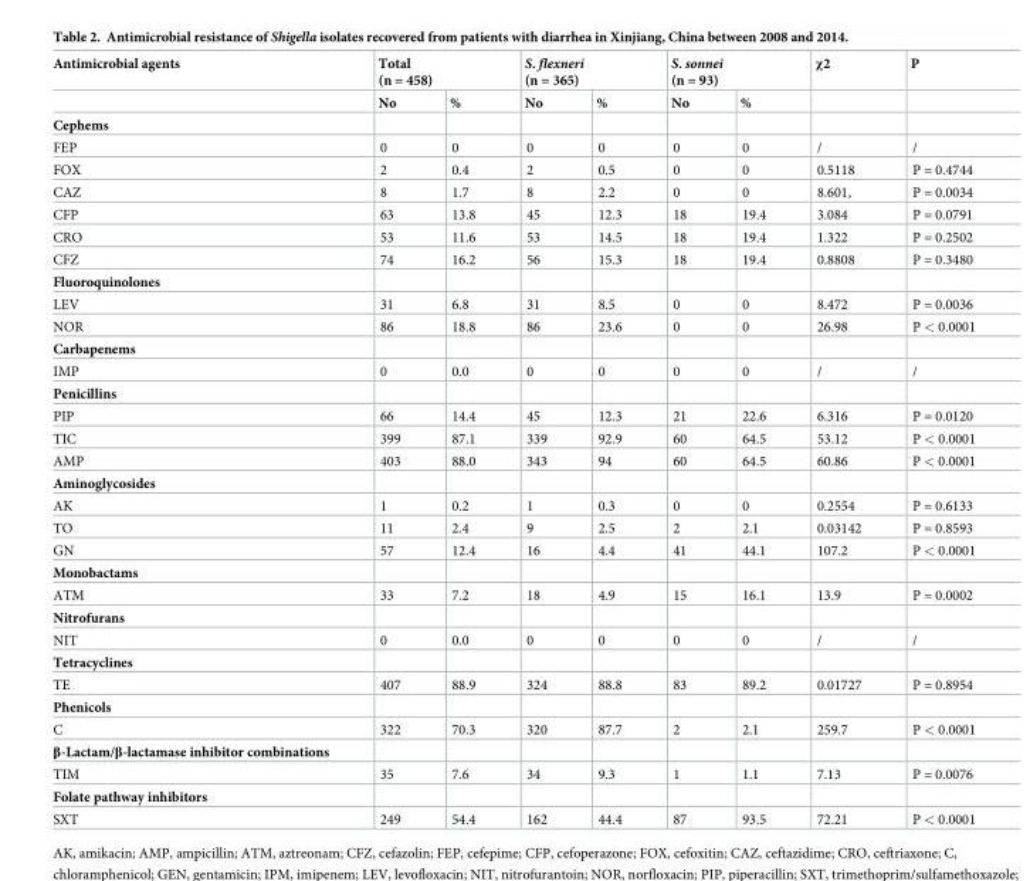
<table><thead><tr><td rowspan="2">Antimicrobial agents</td><td colspan="2">Total (n = 458)</td><td colspan="2">S. flexneri (n = 365)</td><td colspan="2">S. sonnei (n = 93)</td><td rowspan="2">χ2</td><td rowspan="2">P</td></tr><tr><td>No</td><td>%</td><td>No</td><td>%</td><td>No</td><td>%</td></tr></thead><tbody><tr><td colspan="9">Cephems</td></tr><tr><td>FEP</td><td>0</td><td>0</td><td>0</td><td>0</td><td>0</td><td>0</td><td>/</td><td>/</td></tr><tr><td>FOX</td><td>2</td><td>0.4</td><td>2</td><td>0.5</td><td>0</td><td>0</td><td>0.5118</td><td>P = 0.4744</td></tr><tr><td>CAZ</td><td>8</td><td>1.7</td><td>8</td><td>2.2</td><td>0</td><td>0</td><td>8.601,</td><td>P = 0.0034</td></tr><tr><td>CFP</td><td>63</td><td>13.8</td><td>45</td><td>12.3</td><td>18</td><td>19.4</td><td>3.084</td><td>P = 0.0791</td></tr><tr><td>CRO</td><td>53</td><td>11.6</td><td>53</td><td>14.5</td><td>18</td><td>19.4</td><td>1.322</td><td>P = 0.2502</td></tr><tr><td>CFZ</td><td>74</td><td>16.2</td><td>56</td><td>15.3</td><td>18</td><td>19.4</td><td>0.8808</td><td>P = 0.3480</td></tr><tr><td colspan="9">Fluoroquinolones</td></tr><tr><td>LEV</td><td>31</td><td>6.8</td><td>31</td><td>8.5</td><td>0</td><td>0</td><td>8.472</td><td>P = 0.0036</td></tr><tr><td>NOR</td><td>86</td><td>18.8</td><td>86</td><td>23.6</td><td>0</td><td>0</td><td>26.98</td><td>P &lt; 0.0001</td></tr><tr><td colspan="9">Carbapenems</td></tr><tr><td>IMP</td><td>0</td><td>0.0</td><td>0</td><td>0</td><td>0</td><td>0</td><td>/</td><td>/</td></tr><tr><td colspan="9">Penicillins</td></tr><tr><td>PIP</td><td>66</td><td>14.4</td><td>45</td><td>12.3</td><td>21</td><td>22.6</td><td>6.316</td><td>P = 0.0120</td></tr><tr><td>TIC</td><td>399</td><td>87.1</td><td>339</td><td>92.9</td><td>60</td><td>64.5</td><td>53.12</td><td>P &lt; 0.0001</td></tr><tr><td>AMP</td><td>403</td><td>88.0</td><td>343</td><td>94</td><td>60</td><td>64.5</td><td>60.86</td><td>P &lt; 0.0001</td></tr><tr><td colspan="9">Aminoglycosides</td></tr><tr><td>AK</td><td>1</td><td>0.2</td><td>1</td><td>0.3</td><td>0</td><td>0</td><td>0.2554</td><td>P = 0.6133</td></tr><tr><td>TO</td><td>11</td><td>2.4</td><td>9</td><td>2.5</td><td>2</td><td>2.1</td><td>0.03142</td><td>P = 0.8593</td></tr><tr><td>GN</td><td>57</td><td>12.4</td><td>16</td><td>4.4</td><td>41</td><td>44.1</td><td>107.2</td><td>P &lt; 0.0001</td></tr><tr><td colspan="9">Monobactams</td></tr><tr><td>ATM</td><td>33</td><td>7.2</td><td>18</td><td>4.9</td><td>15</td><td>16.1</td><td>13.9</td><td>P = 0.0002</td></tr><tr><td colspan="9">Nitrofurans</td></tr><tr><td>NIT</td><td>0</td><td>0.0</td><td>0</td><td>0</td><td>0</td><td>0</td><td>/</td><td>/</td></tr><tr><td colspan="9">Tetracyclines</td></tr><tr><td>TE</td><td>407</td><td>88.9</td><td>324</td><td>88.8</td><td>83</td><td>89.2</td><td>0.01727</td><td>P = 0.8954</td></tr><tr><td colspan="9">Phenicols</td></tr><tr><td>C</td><td>322</td><td>70.3</td><td>320</td><td>87.7</td><td>2</td><td>2.1</td><td>259.7</td><td>P &lt; 0.0001</td></tr><tr><td colspan="9">β-Lactam/β-lactamase inhibitor combinations</td></tr><tr><td>TIM</td><td>35</td><td>7.6</td><td>34</td><td>9.3</td><td>1</td><td>1.1</td><td>7.13</td><td>P = 0.0076</td></tr><tr><td colspan="9">Folate pathway inhibitors</td></tr><tr><td>SXT</td><td>249</td><td>54.4</td><td>162</td><td>44.4</td><td>87</td><td>93.5</td><td>72.21</td><td>P &lt; 0.0001</td></tr></tbody></table>